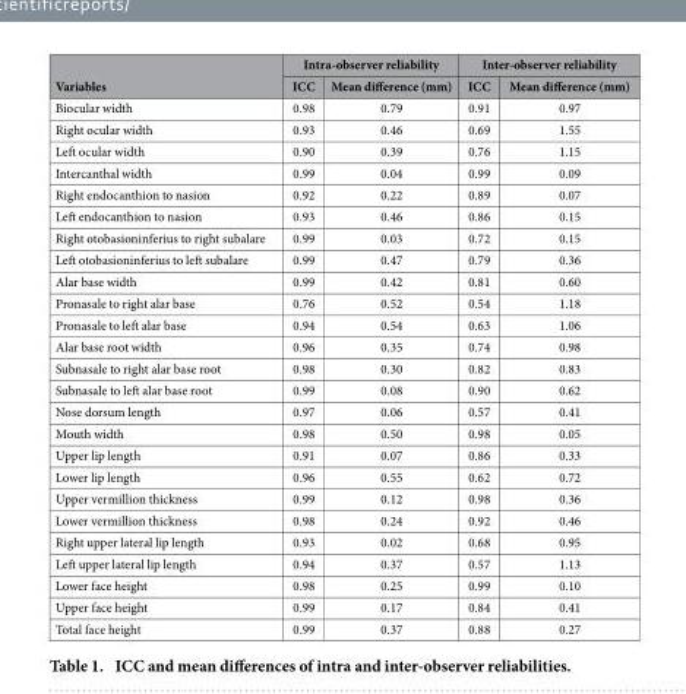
<table><thead><tr><td rowspan="2">Variables</td><td colspan="2">Intra-observer reliability</td><td colspan="2">Inter-observer reliability</td></tr><tr><td>ICC</td><td>Mean difference (mm)</td><td>ICC</td><td>Mean difference (mm)</td></tr></thead><tbody><tr><td>Biocular width</td><td>0.98</td><td>0.79</td><td>0.91</td><td>0.97</td></tr><tr><td>Right ocular width</td><td>0.93</td><td>0.46</td><td>0.69</td><td>1.55</td></tr><tr><td>Left ocular width</td><td>0.90</td><td>0.39</td><td>0.76</td><td>1.15</td></tr><tr><td>Intercanthal width</td><td>0.99</td><td>0.04</td><td>0.99</td><td>0.09</td></tr><tr><td>Right endocanthion to nasion</td><td>0.92</td><td>0.22</td><td>0.89</td><td>0.07</td></tr><tr><td>Left endocanthion to nasion</td><td>0.93</td><td>0.46</td><td>0.86</td><td>0.15</td></tr><tr><td>Right otobasioninferius to right subalare</td><td>0.99</td><td>0.03</td><td>0.72</td><td>0.15</td></tr><tr><td>Left otobasioninferius to left subalare</td><td>0.99</td><td>0.47</td><td>0.79</td><td>0.36</td></tr><tr><td>Alar base width</td><td>0.99</td><td>0.42</td><td>0.81</td><td>0.60</td></tr><tr><td>Pronasale to right alar base</td><td>0.76</td><td>0.52</td><td>0.54</td><td>1.18</td></tr><tr><td>Pronasale to left alar base</td><td>0.94</td><td>0.54</td><td>0.63</td><td>1.06</td></tr><tr><td>Alar base root width</td><td>0.96</td><td>0.35</td><td>0.74</td><td>0.98</td></tr><tr><td>Subnasale to right alar base root</td><td>0.98</td><td>0.30</td><td>0.82</td><td>0.83</td></tr><tr><td>Subnasale to left alar base root</td><td>0.99</td><td>0.08</td><td>0.90</td><td>0.62</td></tr><tr><td>Nose dorsum length</td><td>0.97</td><td>0.06</td><td>0.57</td><td>0.41</td></tr><tr><td>Mouth width</td><td>0.98</td><td>0.50</td><td>0.98</td><td>0.05</td></tr><tr><td>Upper lip length</td><td>0.91</td><td>0.07</td><td>0.86</td><td>0.33</td></tr><tr><td>Lower lip length</td><td>0.96</td><td>0.55</td><td>0.62</td><td>0.72</td></tr><tr><td>Upper vermillion thickness</td><td>0.99</td><td>0.12</td><td>0.98</td><td>0.36</td></tr><tr><td>Lower vermillion thickness</td><td>0.98</td><td>0.24</td><td>0.92</td><td>0.46</td></tr><tr><td>Right upper lateral lip length</td><td>0.93</td><td>0.02</td><td>0.68</td><td>0.95</td></tr><tr><td>Left upper lateral lip length</td><td>0.94</td><td>0.37</td><td>0.57</td><td>1.13</td></tr><tr><td>Lower face height</td><td>0.98</td><td>0.25</td><td>0.99</td><td>0.10</td></tr><tr><td>Upper face height</td><td>0.99</td><td>0.17</td><td>0.84</td><td>0.41</td></tr><tr><td>Total face height</td><td>0.99</td><td>0.37</td><td>0.88</td><td>0.27</td></tr></tbody></table>